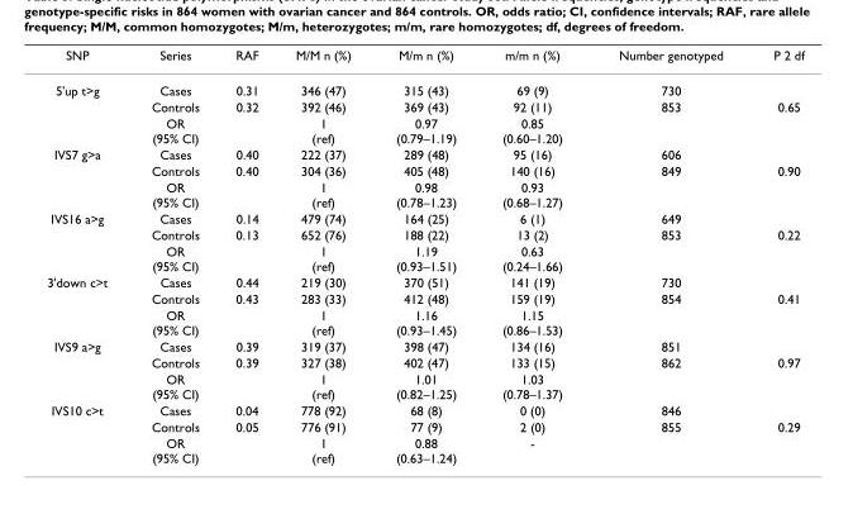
<table><thead><tr><td>SNP</td><td>Series</td><td>RAF</td><td>M/M n (%)</td><td>M/m n (%)</td><td>m/m n (%)</td><td>Number genotyped</td><td>P 2 df</td></tr></thead><tbody><tr><td rowspan="3">5&#x27;up t&gt;g</td><td>Cases</td><td>0.31</td><td>346 (47)</td><td>315 (43)</td><td>69 (9)</td><td>730</td><td></td></tr><tr><td>Controls</td><td>0.32</td><td>392 (46)</td><td>369 (43)</td><td>92 (11)</td><td>853</td><td>0.65</td></tr><tr><td>OR (95% CI)</td><td></td><td>1 (ref)</td><td>0.97 (0.79–1.19)</td><td>0.85 (0.60–1.20)</td><td></td><td></td></tr><tr><td rowspan="3">IVS7 g&gt;a</td><td>Cases</td><td>0.40</td><td>222 (37)</td><td>289 (48)</td><td>95 (16)</td><td>606</td><td></td></tr><tr><td>Controls</td><td>0.40</td><td>304 (36)</td><td>405 (48)</td><td>140 (16)</td><td>849</td><td>0.90</td></tr><tr><td>OR (95% CI)</td><td></td><td>1 (ref)</td><td>0.98 (0.78–1.23)</td><td>0.93 (0.68–1.27)</td><td></td><td></td></tr><tr><td rowspan="3">IVS16 a&gt;g</td><td>Cases</td><td>0.14</td><td>479 (74)</td><td>164 (25)</td><td>6 (1)</td><td>649</td><td></td></tr><tr><td>Controls</td><td>0.13</td><td>652 (76)</td><td>188 (22)</td><td>13 (2)</td><td>853</td><td>0.22</td></tr><tr><td>OR (95% CI)</td><td></td><td>1 (ref)</td><td>1.19 (0.93–1.51)</td><td>0.63 (0.24–1.66)</td><td></td><td></td></tr><tr><td rowspan="3">3&#x27;down c&gt;t</td><td>Cases</td><td>0.44</td><td>219 (30)</td><td>370 (51)</td><td>141 (19)</td><td>730</td><td></td></tr><tr><td>Controls</td><td>0.43</td><td>283 (33)</td><td>412 (48)</td><td>159 (19)</td><td>854</td><td>0.41</td></tr><tr><td>OR (95% CI)</td><td></td><td>1 (ref)</td><td>1.16 (0.93–1.45)</td><td>1.15 (0.86–1.53)</td><td></td><td></td></tr><tr><td rowspan="3">IVS9 a&gt;g</td><td>Cases</td><td>0.39</td><td>319 (37)</td><td>398 (47)</td><td>134 (16)</td><td>851</td><td></td></tr><tr><td>Controls</td><td>0.39</td><td>327 (38)</td><td>402 (47)</td><td>133 (15)</td><td>862</td><td>0.97</td></tr><tr><td>OR (95% CI)</td><td></td><td>1 (ref)</td><td>1.01 (0.82–1.25)</td><td>1.03 (0.78–1.37)</td><td></td><td></td></tr><tr><td rowspan="3">IVS10 c&gt;t</td><td>Cases</td><td>0.04</td><td>778 (92)</td><td>68 (8)</td><td>0 (0)</td><td>846</td><td></td></tr><tr><td>Controls</td><td>0.05</td><td>776 (91)</td><td>77 (9)</td><td>2 (0)</td><td>855</td><td>0.29</td></tr><tr><td>OR (95% CI)</td><td></td><td>1 (ref)</td><td>0.88 (0.63–1.24)</td><td>-</td><td></td><td></td></tr></tbody></table>